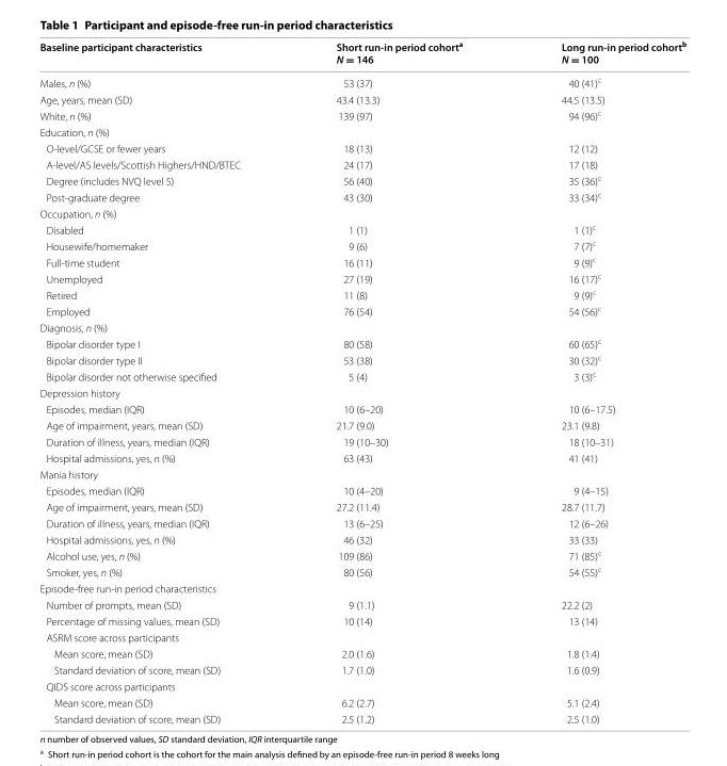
<table><thead><tr><td>Baseline participant characteristics</td><td>Short run-in period cohort<sup>a</sup> N = 146</td><td>Long run-in period cohort<sup>b</sup> N = 100</td></tr></thead><tbody><tr><td>Males, n (%)</td><td>53 (37)</td><td>40 (41)<sup>c</sup></td></tr><tr><td>Age, years, mean (SD)</td><td>43.4 (13.3)</td><td>44.5 (13.5)</td></tr><tr><td>White, n (%)</td><td>139 (97)</td><td>94 (96)<sup>c</sup></td></tr><tr><td colspan="3">Education, n (%)</td></tr><tr><td>O‑level/GCSE or fewer years</td><td>18 (13)</td><td>12 (12)</td></tr><tr><td>A‑level/AS levels/Scottish Highers/HND/BTEC</td><td>24 (17)</td><td>17 (18)</td></tr><tr><td>Degree (includes NVQ level 5)</td><td>56 (40)</td><td>35 (36)<sup>c</sup></td></tr><tr><td>Post‑graduate degree</td><td>43 (30)</td><td>33 (34)<sup>c</sup></td></tr><tr><td colspan="3">Occupation, n (%)</td></tr><tr><td>Disabled</td><td>1 (1)</td><td>1 (1)<sup>c</sup></td></tr><tr><td>Housewife/homemaker</td><td>9 (6)</td><td>7 (7)<sup>c</sup></td></tr><tr><td>Full‑time student</td><td>16 (11)</td><td>9 (9)<sup>c</sup></td></tr><tr><td>Unemployed</td><td>27 (19)</td><td>16 (17)<sup>c</sup></td></tr><tr><td>Retired</td><td>11 (8)</td><td>9 (9)<sup>c</sup></td></tr><tr><td>Employed</td><td>76 (54)</td><td>54 (56)<sup>c</sup></td></tr><tr><td colspan="3">Diagnosis, n (%)</td></tr><tr><td>Bipolar disorder type I</td><td>80 (58)</td><td>60 (65)<sup>c</sup></td></tr><tr><td>Bipolar disorder type II</td><td>53 (38)</td><td>30 (32)<sup>c</sup></td></tr><tr><td>Bipolar disorder not otherwise specified</td><td>5 (4)</td><td>3 (3)<sup>c</sup></td></tr><tr><td colspan="3">Depression history</td></tr><tr><td>Episodes, median (IQR)</td><td>10 (6–20)</td><td>10 (6–17.5)</td></tr><tr><td>Age of impairment, years, mean (SD)</td><td>21.7 (9.0)</td><td>23.1 (9.8)</td></tr><tr><td>Duration of illness, years, median (IQR)</td><td>19 (10–30)</td><td>18 (10–31)</td></tr><tr><td>Hospital admissions, yes, n (%)</td><td>63 (43)</td><td>41 (41)</td></tr><tr><td colspan="3">Mania history</td></tr><tr><td>Episodes, median (IQR)</td><td>10 (4–20)</td><td>9 (4–15)</td></tr><tr><td>Age of impairment, years, mean (SD)</td><td>27.2 (11.4)</td><td>28.7 (11.7)</td></tr><tr><td>Duration of illness, years, median (IQR)</td><td>13 (6–25)</td><td>12 (6–26)</td></tr><tr><td>Hospital admissions, yes, n (%)</td><td>46 (32)</td><td>33 (33)</td></tr><tr><td>Alcohol use, yes, n (%)</td><td>109 (86)</td><td>71 (85)<sup>c</sup></td></tr><tr><td>Smoker, yes, n (%)</td><td>80 (56)</td><td>54 (55)<sup>c</sup></td></tr><tr><td colspan="3">Episode‑free run‑in period characteristics</td></tr><tr><td>Number of prompts, mean (SD)</td><td>9 (1.1)</td><td>22.2 (2)</td></tr><tr><td>Percentage of missing values, mean (SD)</td><td>10 (14)</td><td>13 (14)</td></tr><tr><td colspan="3">ASRM score across participants</td></tr><tr><td>Mean score, mean (SD)</td><td>2.0 (1.6)</td><td>1.8 (1.4)</td></tr><tr><td>Standard deviation of score, mean (SD)</td><td>1.7 (1.0)</td><td>1.6 (0.9)</td></tr><tr><td colspan="3">QIDS score across participants</td></tr><tr><td>Mean score, mean (SD)</td><td>6.2 (2.7)</td><td>5.1 (2.4)</td></tr><tr><td>Standard deviation of score, mean (SD)</td><td>2.5 (1.2)</td><td>2.5 (1.0)</td></tr></tbody></table>